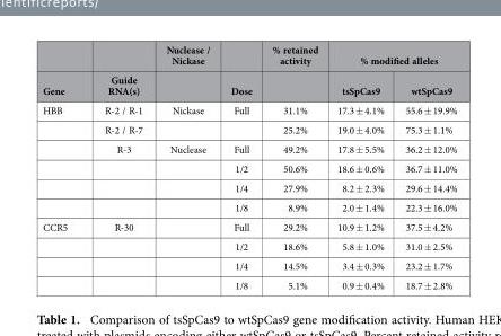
<table><thead><tr><td rowspan="2">Gene</td><td rowspan="2">Guide RNA(s)</td><td rowspan="2">Nuclease / Nickase</td><td rowspan="2">Dose</td><td rowspan="2">% retained activity</td><td colspan="2">% modified alleles</td></tr><tr><td>tsSpCas9</td><td>wtSpCas9</td></tr></thead><tbody><tr><td rowspan="6">HBB</td><td>R-2 / R-1</td><td>Nickase</td><td>Full</td><td>31.1%</td><td>17.3 ± 4.1%</td><td>55.6 ± 19.9%</td></tr><tr><td>R-2 / R-7</td><td></td><td></td><td>25.2%</td><td>19.0 ± 4.0%</td><td>75.3 ± 1.1%</td></tr><tr><td>R-3</td><td>Nuclease</td><td>Full</td><td>49.2%</td><td>17.8 ± 5.5%</td><td>36.2 ± 12.0%</td></tr><tr><td></td><td></td><td>1/2</td><td>50.6%</td><td>18.6 ± 0.6%</td><td>36.7 ± 11.0%</td></tr><tr><td></td><td></td><td>1/4</td><td>27.9%</td><td>8.2 ± 2.3%</td><td>29.6 ± 14.4%</td></tr><tr><td></td><td></td><td>1/8</td><td>8.9%</td><td>2.0 ± 1.4%</td><td>22.3 ± 16.0%</td></tr><tr><td rowspan="4">CCR5</td><td>R-30</td><td></td><td>Full</td><td>29.2%</td><td>10.9 ± 1.2%</td><td>37.5 ± 4.2%</td></tr><tr><td></td><td></td><td>1/2</td><td>18.6%</td><td>5.8 ± 1.0%</td><td>31.0 ± 2.5%</td></tr><tr><td></td><td></td><td>1/4</td><td>14.5%</td><td>3.4 ± 0.3%</td><td>23.2 ± 1.7%</td></tr><tr><td></td><td></td><td>1/8</td><td>5.1%</td><td>0.9 ± 0.4%</td><td>18.7 ± 2.8%</td></tr></tbody></table>